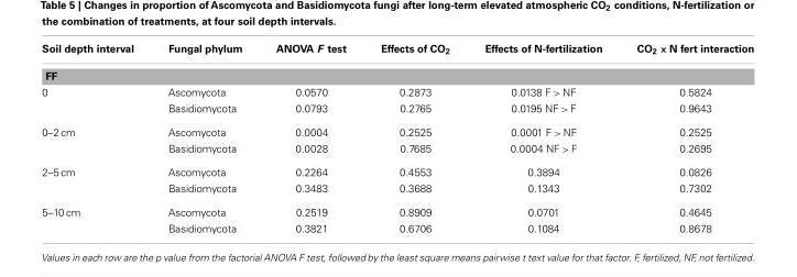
<table><thead><tr><td>Soil depth interval</td><td>Fungal phylum</td><td>ANOVA F test</td><td>Effects of CO<sub>2</sub></td><td>Effects of N-fertilization</td><td>CO<sub>2</sub> × N fert interaction</td></tr></thead><tbody><tr><td colspan="6">FF</td></tr><tr><td rowspan="2">0</td><td>Ascomycota</td><td>0.0570</td><td>0.2873</td><td>0.0138 F &gt; NF</td><td>0.5824</td></tr><tr><td>Basidiomycota</td><td>0.0793</td><td>0.2765</td><td>0.0195 NF &gt; F</td><td>0.9643</td></tr><tr><td rowspan="2">0–2 cm</td><td>Ascomycota</td><td>0.0004</td><td>0.2525</td><td>0.0001 F &gt; NF</td><td>0.2525</td></tr><tr><td>Basidiomycota</td><td>0.0028</td><td>0.7685</td><td>0.0004 NF &gt; F</td><td>0.2695</td></tr><tr><td rowspan="2">2–5 cm</td><td>Ascomycota</td><td>0.2264</td><td>0.4553</td><td>0.3894</td><td>0.0826</td></tr><tr><td>Basidiomycota</td><td>0.3483</td><td>0.3688</td><td>0.1343</td><td>0.7302</td></tr><tr><td rowspan="2">5–10 cm</td><td>Ascomycota</td><td>0.2519</td><td>0.8909</td><td>0.0701</td><td>0.4645</td></tr><tr><td>Basidiomycota</td><td>0.3821</td><td>0.6706</td><td>0.1084</td><td>0.8678</td></tr></tbody></table>